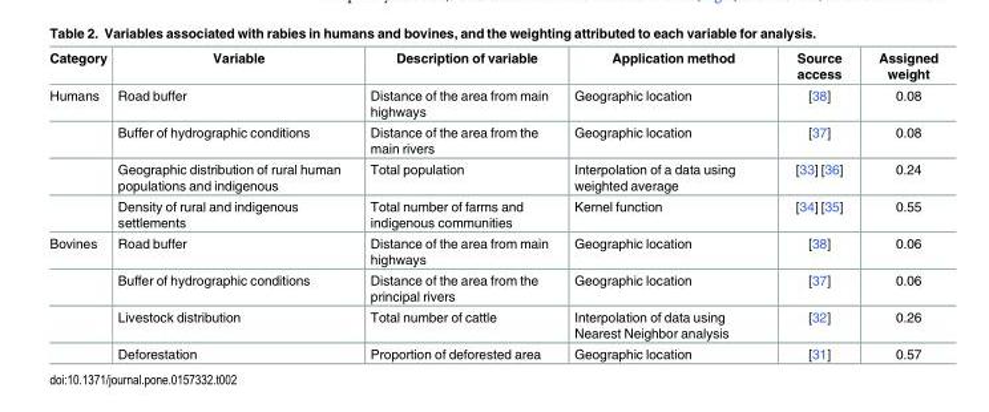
<table><thead><tr><td>Category</td><td>Variable</td><td>Description of variable</td><td>Application method</td><td>Source access</td><td>Assigned weight</td></tr></thead><tbody><tr><td rowspan="4">Humans</td><td>Road buffer</td><td>Distance of the area from main highways</td><td>Geographic location</td><td>[38]</td><td>0.08</td></tr><tr><td>Buffer of hydrographic conditions</td><td>Distance of the area from the main rivers</td><td>Geographic location</td><td>[37]</td><td>0.08</td></tr><tr><td>Geographic distribution of rural human populations and indigenous</td><td>Total population</td><td>Interpolation of a data using weighted average</td><td>[33] [36]</td><td>0.24</td></tr><tr><td>Density of rural and indigenous settlements</td><td>Total number of farms and indigenous communities</td><td>Kernel function</td><td>[34] [35]</td><td>0.55</td></tr><tr><td rowspan="4">Bovines</td><td>Road buffer</td><td>Distance of the area from main highways</td><td>Geographic location</td><td>[38]</td><td>0.06</td></tr><tr><td>Buffer of hydrographic conditions</td><td>Distance of the area from the principal rivers</td><td>Geographic location</td><td>[37]</td><td>0.06</td></tr><tr><td>Livestock distribution</td><td>Total number of cattle</td><td>Interpolation of data using Nearest Neighbor analysis</td><td>[32]</td><td>0.26</td></tr><tr><td>Deforestation</td><td>Proportion of deforested area</td><td>Geographic location</td><td>[31]</td><td>0.57</td></tr></tbody></table>